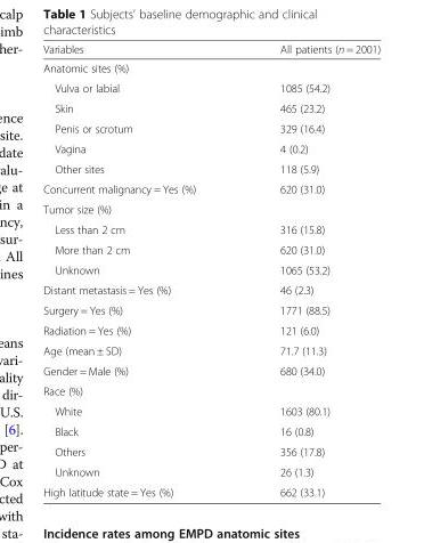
<table><thead><tr><td>Variables</td><td>All patients (n = 2001)</td></tr></thead><tbody><tr><td colspan="2">Anatomic sites (%)</td></tr><tr><td>Vulva or labial</td><td>1085 (54.2)</td></tr><tr><td>Skin</td><td>465 (23.2)</td></tr><tr><td>Penis or scrotum</td><td>329 (16.4)</td></tr><tr><td>Vagina</td><td>4 (0.2)</td></tr><tr><td>Other sites</td><td>118 (5.9)</td></tr><tr><td>Concurrent malignancy = Yes (%)</td><td>620 (31.0)</td></tr><tr><td colspan="2">Tumor size (%)</td></tr><tr><td>Less than 2 cm</td><td>316 (15.8)</td></tr><tr><td>More than 2 cm</td><td>620 (31.0)</td></tr><tr><td>Unknown</td><td>1065 (53.2)</td></tr><tr><td>Distant metastasis = Yes (%)</td><td>46 (2.3)</td></tr><tr><td>Surgery = Yes (%)</td><td>1771 (88.5)</td></tr><tr><td>Radiation = Yes (%)</td><td>121 (6.0)</td></tr><tr><td>Age (mean ± SD)</td><td>71.7 (11.3)</td></tr><tr><td>Gender = Male (%)</td><td>680 (34.0)</td></tr><tr><td colspan="2">Race (%)</td></tr><tr><td>White</td><td>1603 (80.1)</td></tr><tr><td>Black</td><td>16 (0.8)</td></tr><tr><td>Others</td><td>356 (17.8)</td></tr><tr><td>Unknown</td><td>26 (1.3)</td></tr><tr><td>High latitude state = Yes (%)</td><td>662 (33.1)</td></tr></tbody></table>